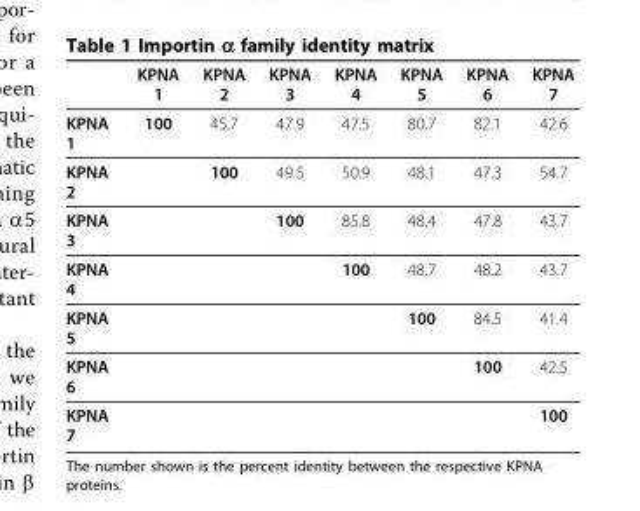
<table><thead><tr><td></td><td>KPNA 1</td><td>KPNA 2</td><td>KPNA 3</td><td>KPNA 4</td><td>KPNA 5</td><td>KPNA 6</td><td>KPNA 7</td></tr></thead><tbody><tr><td>KPNA 1</td><td>100</td><td>45.7</td><td>47.9</td><td>47.5</td><td>80.7</td><td>82.1</td><td>42.6</td></tr><tr><td>KPNA 2</td><td></td><td>100</td><td>49.5</td><td>50.9</td><td>48.1</td><td>47.3</td><td>54.7</td></tr><tr><td>KPNA 3</td><td></td><td></td><td>100</td><td>85.8</td><td>48.4</td><td>47.8</td><td>43.7</td></tr><tr><td>KPNA 4</td><td></td><td></td><td></td><td>100</td><td>48.7</td><td>48.2</td><td>43.7</td></tr><tr><td>KPNA 5</td><td></td><td></td><td></td><td></td><td>100</td><td>84.5</td><td>41.4</td></tr><tr><td>KPNA 6</td><td></td><td></td><td></td><td></td><td></td><td>100</td><td>42.5</td></tr><tr><td>KPNA 7</td><td></td><td></td><td></td><td></td><td></td><td></td><td>100</td></tr></tbody></table>